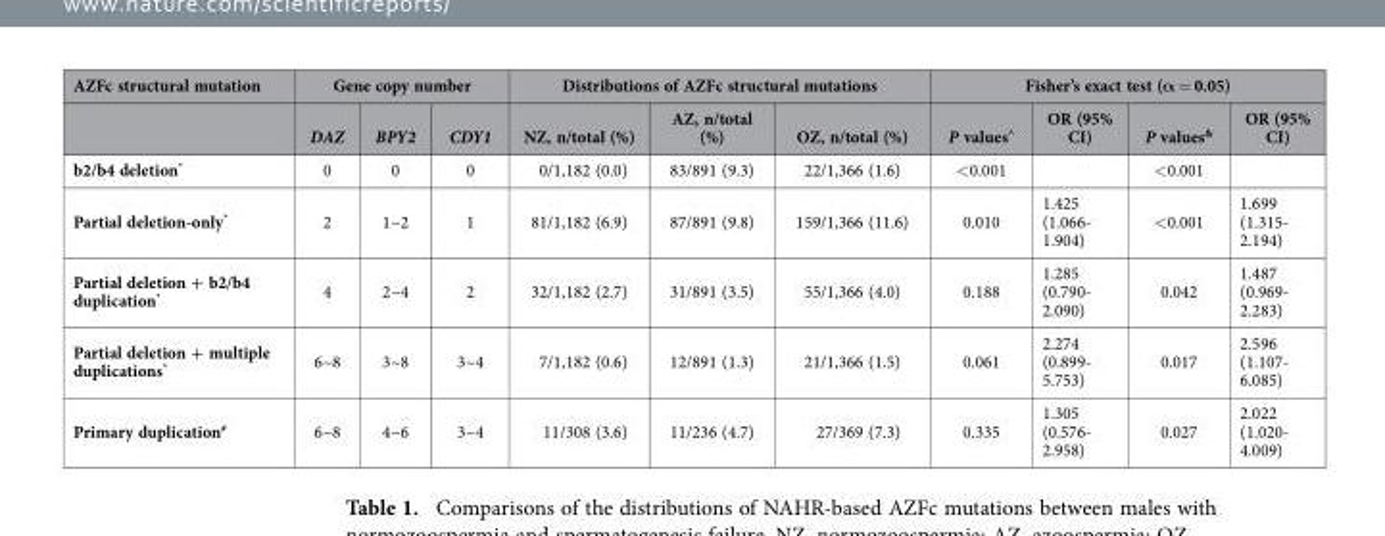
<table><thead><tr><td rowspan="2">AZFc structural mutation</td><td colspan="3">Gene copy number</td><td colspan="3">Distributions of AZFc structural mutations</td><td colspan="4">Fisher’s exact test (α = 0.05)</td></tr><tr><td>DAZ</td><td>BPY2</td><td>CDY1</td><td>NZ, n/total (%)</td><td>AZ, n/total (%)</td><td>OZ, n/total (%)</td><td>P values^</td><td>OR (95% CI)</td><td>P values&amp;</td><td>OR (95% CI)</td></tr></thead><tbody><tr><td>b2/b4 deletion*</td><td>0</td><td>0</td><td>0</td><td>0/1,182 (0.0)</td><td>83/891 (9.3)</td><td>22/1,366 (1.6)</td><td>&lt;0.001</td><td></td><td>&lt;0.001</td><td></td></tr><tr><td>Partial deletion-only*</td><td>2</td><td>1~2</td><td>1</td><td>81/1,182 (6.9)</td><td>87/891 (9.8)</td><td>159/1,366 (11.6)</td><td>0.010</td><td>1.425 (1.066- 1.904)</td><td>&lt;0.001</td><td>1.699 (1.315- 2.194)</td></tr><tr><td>Partial deletion + b2/b4 duplication*</td><td>4</td><td>2~4</td><td>2</td><td>32/1,182 (2.7)</td><td>31/891 (3.5)</td><td>55/1,366 (4.0)</td><td>0.188</td><td>1.285 (0.790- 2.090)</td><td>0.042</td><td>1.487 (0.969- 2.283)</td></tr><tr><td>Partial deletion + multiple duplications*</td><td>6~8</td><td>3~8</td><td>3~4</td><td>7/1,182 (0.6)</td><td>12/891 (1.3)</td><td>21/1,366 (1.5)</td><td>0.061</td><td>2.274 (0.899- 5.753)</td><td>0.017</td><td>2.596 (1.107- 6.085)</td></tr><tr><td>Primary duplication#</td><td>6~8</td><td>4~6</td><td>3~4</td><td>11/308 (3.6)</td><td>11/236 (4.7)</td><td>27/369 (7.3)</td><td>0.335</td><td>1.305 (0.576- 2.958)</td><td>0.027</td><td>2.022 (1.020- 4.009)</td></tr></tbody></table>